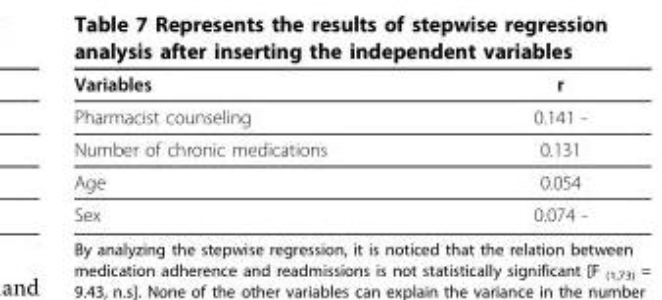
<table><thead><tr><td>Variables</td><td>r</td></tr></thead><tbody><tr><td>Pharmacist counseling</td><td>0.141 -</td></tr><tr><td>Number of chronic medications</td><td>0.131</td></tr><tr><td>Age</td><td>0.054</td></tr><tr><td>Sex</td><td>0.074 -</td></tr></tbody></table>